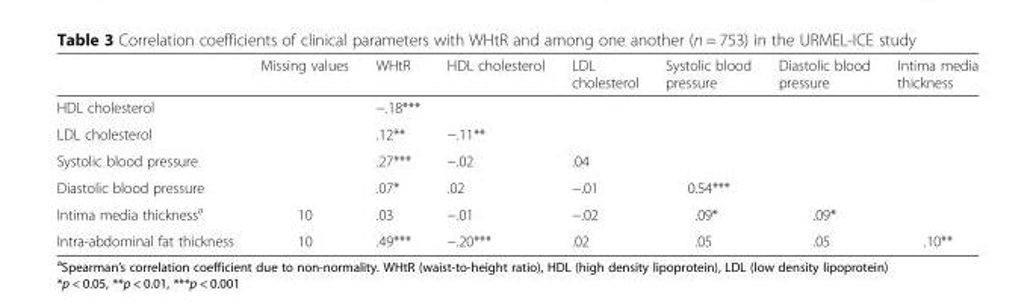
<table><thead><tr><td></td><td>Missing values</td><td>WHtR</td><td>HDL cholesterol</td><td>LDL cholesterol</td><td>Systolic blood pressure</td><td>Diastolic blood pressure</td><td>Intima media thickness</td></tr></thead><tbody><tr><td>HDL cholesterol</td><td></td><td>−.18***</td><td></td><td></td><td></td><td></td><td></td></tr><tr><td>LDL cholesterol</td><td></td><td>.12**</td><td>−.11**</td><td></td><td></td><td></td><td></td></tr><tr><td>Systolic blood pressure</td><td></td><td>.27***</td><td>−.02</td><td>.04</td><td></td><td></td><td></td></tr><tr><td>Diastolic blood pressure</td><td></td><td>.07*</td><td>.02</td><td>−.01</td><td>0.54***</td><td></td><td></td></tr><tr><td>Intima media thickness<sup>a</sup></td><td>10</td><td>.03</td><td>−.01</td><td>−.02</td><td>.09*</td><td>.09*</td><td></td></tr><tr><td>Intra-abdominal fat thickness</td><td>10</td><td>.49***</td><td>−.20***</td><td>.02</td><td>.05</td><td>.05</td><td>.10**</td></tr></tbody></table>